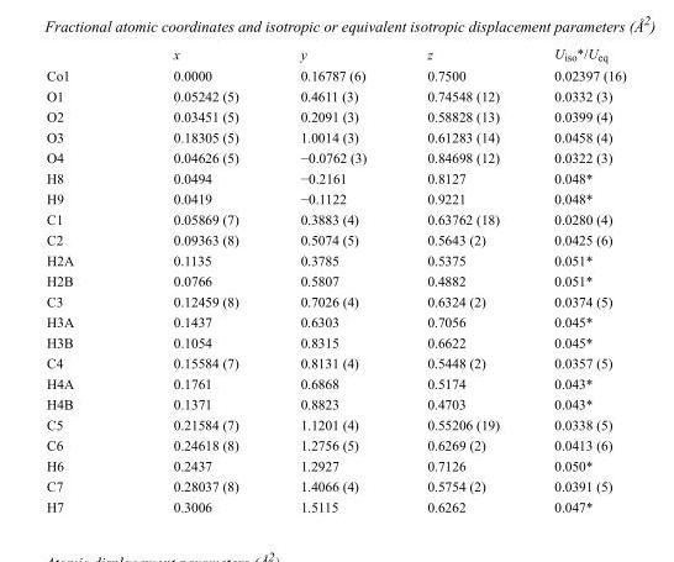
<table><thead><tr><td></td><td>x</td><td>y</td><td>z</td><td>U<sub>iso</sub>*/U<sub>eq</sub></td></tr></thead><tbody><tr><td>Co1</td><td>0.0000</td><td>0.16787 (6)</td><td>0.7500</td><td>0.02397 (16)</td></tr><tr><td>O1</td><td>0.05242 (5)</td><td>0.4611 (3)</td><td>0.74548 (12)</td><td>0.0332 (3)</td></tr><tr><td>O2</td><td>0.03451 (5)</td><td>0.2091 (3)</td><td>0.58828 (13)</td><td>0.0399 (4)</td></tr><tr><td>O3</td><td>0.18305 (5)</td><td>1.0014 (3)</td><td>0.61283 (14)</td><td>0.0458 (4)</td></tr><tr><td>O4</td><td>0.04626 (5)</td><td>−0.0762 (3)</td><td>0.84698 (12)</td><td>0.0322 (3)</td></tr><tr><td>H8</td><td>0.0494</td><td>−0.2161</td><td>0.8127</td><td>0.048*</td></tr><tr><td>H9</td><td>0.0419</td><td>−0.1122</td><td>0.9221</td><td>0.048*</td></tr><tr><td>C1</td><td>0.05869 (7)</td><td>0.3883 (4)</td><td>0.63762 (18)</td><td>0.0280 (4)</td></tr><tr><td>C2</td><td>0.09363 (8)</td><td>0.5074 (5)</td><td>0.5643 (2)</td><td>0.0425 (6)</td></tr><tr><td>H2A</td><td>0.1135</td><td>0.3785</td><td>0.5375</td><td>0.051*</td></tr><tr><td>H2B</td><td>0.0766</td><td>0.5807</td><td>0.4882</td><td>0.051*</td></tr><tr><td>C3</td><td>0.12459 (8)</td><td>0.7026 (4)</td><td>0.6324 (2)</td><td>0.0374 (5)</td></tr><tr><td>H3A</td><td>0.1437</td><td>0.6303</td><td>0.7056</td><td>0.045*</td></tr><tr><td>H3B</td><td>0.1054</td><td>0.8315</td><td>0.6622</td><td>0.045*</td></tr><tr><td>C4</td><td>0.15584 (7)</td><td>0.8131 (4)</td><td>0.5448 (2)</td><td>0.0357 (5)</td></tr><tr><td>H4A</td><td>0.1761</td><td>0.6868</td><td>0.5174</td><td>0.043*</td></tr><tr><td>H4B</td><td>0.1371</td><td>0.8823</td><td>0.4703</td><td>0.043*</td></tr><tr><td>C5</td><td>0.21584 (7)</td><td>1.1201 (4)</td><td>0.55206 (19)</td><td>0.0338 (5)</td></tr><tr><td>C6</td><td>0.24618 (8)</td><td>1.2756 (5)</td><td>0.6269 (2)</td><td>0.0413 (6)</td></tr><tr><td>H6</td><td>0.2437</td><td>1.2927</td><td>0.7126</td><td>0.050*</td></tr><tr><td>C7</td><td>0.28037 (8)</td><td>1.4066 (4)</td><td>0.5754 (2)</td><td>0.0391 (5)</td></tr><tr><td>H7</td><td>0.3006</td><td>1.5115</td><td>0.6262</td><td>0.047*</td></tr></tbody></table>